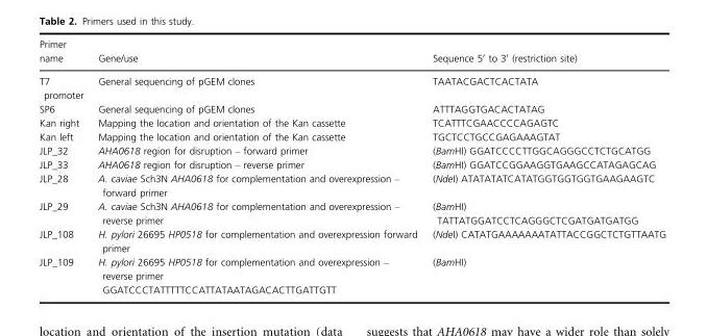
<table><thead><tr><td>Primer name</td><td>Gene/use</td><td>Sequence 5′ to 3′ (restriction site)</td></tr></thead><tbody><tr><td>T7 promoter</td><td>General sequencing of pGEM clones</td><td>TAATACGACTCACTATA</td></tr><tr><td>SP6</td><td>General sequencing of pGEM clones</td><td>ATTTAGGTGACACTATAG</td></tr><tr><td>Kan right</td><td>Mapping the location and orientation of the Kan cassette</td><td>TCATTTCGAACCCCAGAGTC</td></tr><tr><td>Kan left</td><td>Mapping the location and orientation of the Kan cassette</td><td>TGCTCCTGCCGAGAAAGTAT</td></tr><tr><td>JLP_32</td><td>AHA0618 region for disruption – forward primer</td><td>(BamHI) GGATCCCCTTGGCAGGGCCTCTGCATGG</td></tr><tr><td>JLP_33</td><td>AHA0618 region for disruption – reverse primer</td><td>(BamHI) GGATCCGGAAGGTGAAGCCATAGAGCAG</td></tr><tr><td>JLP_28</td><td>A. caviae Sch3N AHA0618 for complementation and overexpression – forward primer</td><td>(NdeI) ATATATATCATATGGTGGTGGTGAAGAAGTC</td></tr><tr><td>JLP_29</td><td>A. caviae Sch3N AHA0618 for complementation and overexpression – reverse primer</td><td>(BamHI) TATTATGGATCCTCAGGGCTCGATGATGATGG</td></tr><tr><td>JLP_108</td><td>H. pylori 26695 HP0518 for complementation and overexpression forward primer</td><td>(NdeI) CATATGAAAAAAATATTACCGGCTCTGTTAATG</td></tr><tr><td>JLP_109</td><td>H. pylori 26695 HP0518 for complementation and overexpression – reverse primer GGATCCCTATTTTTCCATTATAATAGACACTTGATTGTT</td><td>(BamHI)</td></tr></tbody></table>